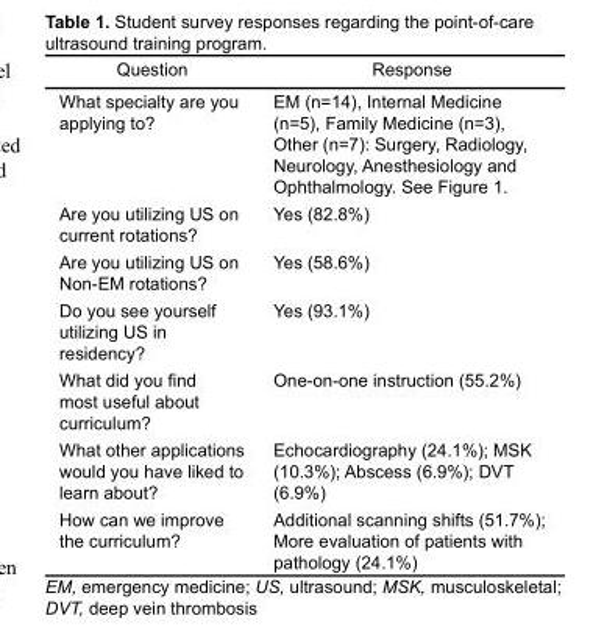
<table><thead><tr><td>Question</td><td>Response</td></tr></thead><tbody><tr><td>What specialty are you applying to?</td><td>EM (n=14), Internal Medicine (n=5), Family Medicine (n=3), Other (n=7): Surgery, Radiology, Neurology, Anesthesiology and Ophthalmology. See Figure 1.</td></tr><tr><td>Are you utilizing US on current rotations?</td><td>Yes (82.8%)</td></tr><tr><td>Are you utilizing US on Non-EM rotations?</td><td>Yes (58.6%)</td></tr><tr><td>Do you see yourself utilizing US in residency?</td><td>Yes (93.1%)</td></tr><tr><td>What did you find most useful about curriculum?</td><td>One-on-one instruction (55.2%)</td></tr><tr><td>What other applications would you have liked to learn about?</td><td>Echocardiography (24.1%); MSK (10.3%); Abscess (6.9%); DVT (6.9%)</td></tr><tr><td>How can we improve the curriculum?</td><td>Additional scanning shifts (51.7%); More evaluation of patients with pathology (24.1%)</td></tr></tbody></table>